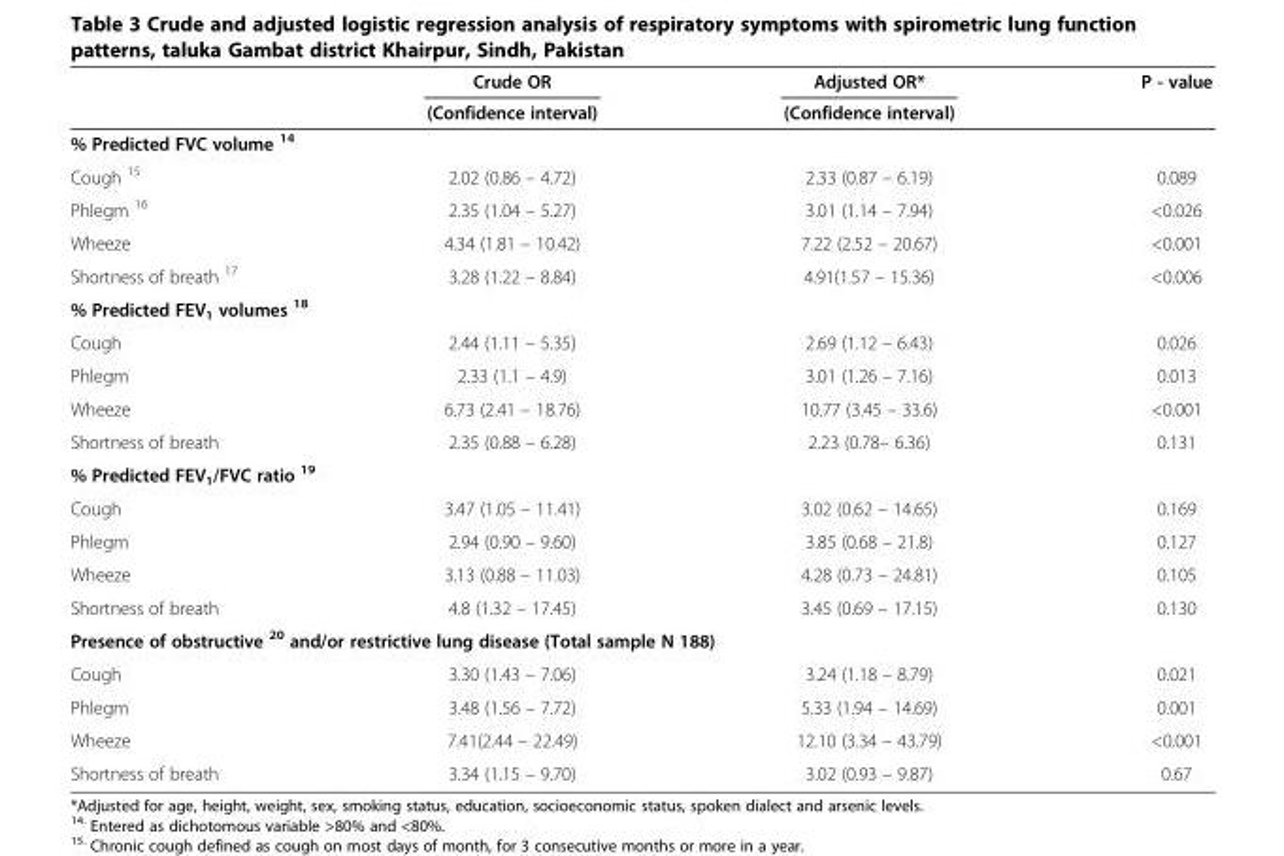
<table><thead><tr><td rowspan="2"></td><td rowspan="2">Crude OR (Confidence interval)</td><td rowspan="2">Adjusted OR* (Confidence interval)</td><td rowspan="2">P - value</td></tr><tr></tr></thead><tbody><tr><td colspan="4">% Predicted FVC volume <sup>14</sup></td></tr><tr><td>Cough <sup>15</sup></td><td>2.02 (0.86 – 4.72)</td><td>2.33 (0.87 – 6.19)</td><td>0.089</td></tr><tr><td>Phlegm <sup>16</sup></td><td>2.35 (1.04 – 5.27)</td><td>3.01 (1.14 – 7.94)</td><td>&lt;0.026</td></tr><tr><td>Wheeze</td><td>4.34 (1.81 – 10.42)</td><td>7.22 (2.52 – 20.67)</td><td>&lt;0.001</td></tr><tr><td>Shortness of breath <sup>17</sup></td><td>3.28 (1.22 – 8.84)</td><td>4.91(1.57 – 15.36)</td><td>&lt;0.006</td></tr><tr><td colspan="4">% Predicted FEV<sub>1</sub> volumes <sup>18</sup></td></tr><tr><td>Cough</td><td>2.44 (1.11 – 5.35)</td><td>2.69 (1.12 – 6.43)</td><td>0.026</td></tr><tr><td>Phlegm</td><td>2.33 (1.1 – 4.9)</td><td>3.01 (1.26 – 7.16)</td><td>0.013</td></tr><tr><td>Wheeze</td><td>6.73 (2.41 – 18.76)</td><td>10.77 (3.45 – 33.6)</td><td>&lt;0.001</td></tr><tr><td>Shortness of breath</td><td>2.35 (0.88 – 6.28)</td><td>2.23 (0.78– 6.36)</td><td>0.131</td></tr><tr><td colspan="4">% Predicted FEV<sub>1</sub>/FVC ratio <sup>19</sup></td></tr><tr><td>Cough</td><td>3.47 (1.05 – 11.41)</td><td>3.02 (0.62 – 14.65)</td><td>0.169</td></tr><tr><td>Phlegm</td><td>2.94 (0.90 – 9.60)</td><td>3.85 (0.68 – 21.8)</td><td>0.127</td></tr><tr><td>Wheeze</td><td>3.13 (0.88 – 11.03)</td><td>4.28 (0.73 – 24.81)</td><td>0.105</td></tr><tr><td>Shortness of breath</td><td>4.8 (1.32 – 17.45)</td><td>3.45 (0.69 – 17.15)</td><td>0.130</td></tr><tr><td colspan="4">Presence of obstructive <sup>20</sup> and/or restrictive lung disease (Total sample N 188)</td></tr><tr><td>Cough</td><td>3.30 (1.43 – 7.06)</td><td>3.24 (1.18 – 8.79)</td><td>0.021</td></tr><tr><td>Phlegm</td><td>3.48 (1.56 – 7.72)</td><td>5.33 (1.94 – 14.69)</td><td>0.001</td></tr><tr><td>Wheeze</td><td>7.41(2.44 – 22.49)</td><td>12.10 (3.34 – 43.79)</td><td>&lt;0.001</td></tr><tr><td>Shortness of breath</td><td>3.34 (1.15 – 9.70)</td><td>3.02 (0.93 – 9.87)</td><td>0.67</td></tr></tbody></table>